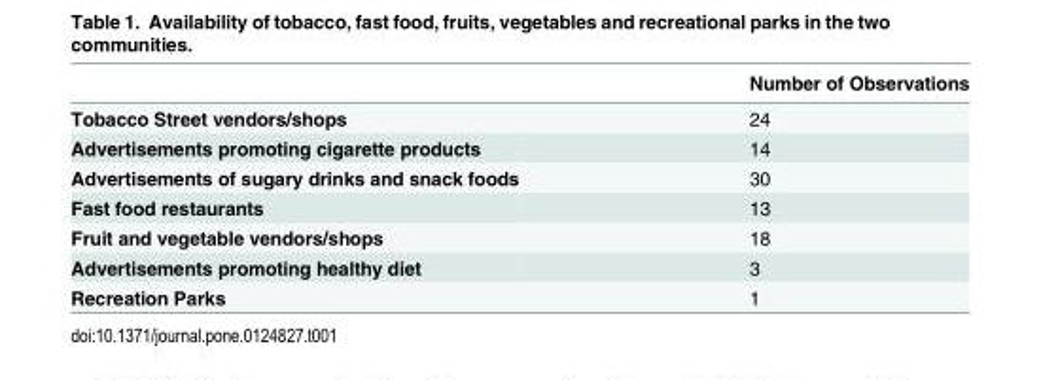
<table><thead><tr><td></td><td>Number of Observations</td></tr></thead><tbody><tr><td>Tobacco Street vendors/shops</td><td>24</td></tr><tr><td>Advertisements promoting cigarette products</td><td>14</td></tr><tr><td>Advertisements of sugary drinks and snack foods</td><td>30</td></tr><tr><td>Fast food restaurants</td><td>13</td></tr><tr><td>Fruit and vegetable vendors/shops</td><td>18</td></tr><tr><td>Advertisements promoting healthy diet</td><td>3</td></tr><tr><td>Recreation Parks</td><td>1</td></tr></tbody></table>